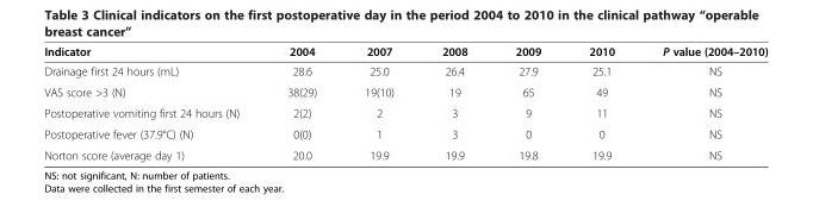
<table><thead><tr><td>Indicator</td><td>2004</td><td>2007</td><td>2008</td><td>2009</td><td>2010</td><td>P value (2004–2010)</td></tr></thead><tbody><tr><td>Drainage first 24 hours (mL)</td><td>28.6</td><td>25.0</td><td>26.4</td><td>27.9</td><td>25.1</td><td>NS</td></tr><tr><td>VAS score &gt;3 (N)</td><td>38(29)</td><td>19(10)</td><td>19</td><td>65</td><td>49</td><td>NS</td></tr><tr><td>Postoperative vomiting first 24 hours (N)</td><td>2(2)</td><td>2</td><td>3</td><td>9</td><td>11</td><td>NS</td></tr><tr><td>Postoperative fever (37.9°C) (N)</td><td>0(0)</td><td>1</td><td>3</td><td>0</td><td>0</td><td>NS</td></tr><tr><td>Norton score (average day 1)</td><td>20.0</td><td>19.9</td><td>19.9</td><td>19.8</td><td>19.9</td><td>NS</td></tr></tbody></table>